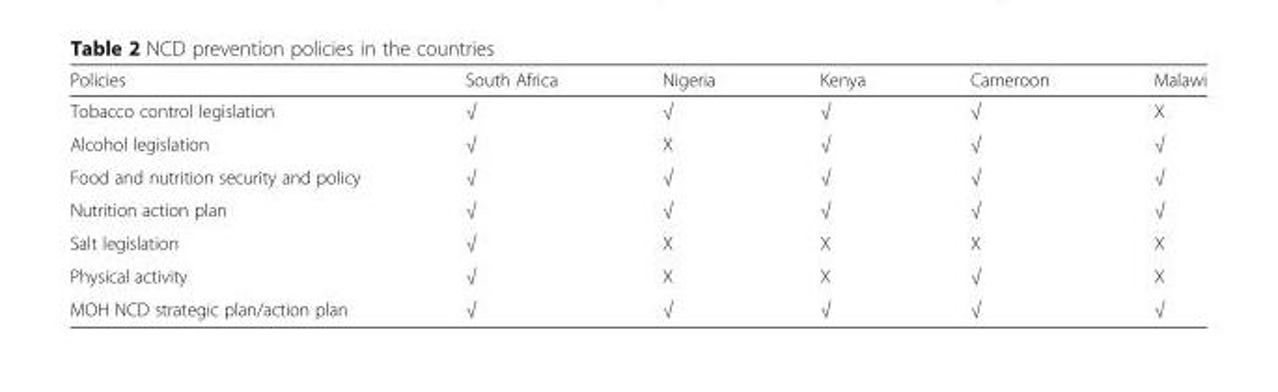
<table><thead><tr><td>Policies</td><td>South Africa</td><td>Nigeria</td><td>Kenya</td><td>Cameroon</td><td>Malawi</td></tr></thead><tbody><tr><td>Tobacco control legislation</td><td>√</td><td>√</td><td>√</td><td>√</td><td>X</td></tr><tr><td>Alcohol legislation</td><td>√</td><td>X</td><td>√</td><td>√</td><td>√</td></tr><tr><td>Food and nutrition security and policy</td><td>√</td><td>√</td><td>√</td><td>√</td><td>√</td></tr><tr><td>Nutrition action plan</td><td>√</td><td>√</td><td>√</td><td>√</td><td>√</td></tr><tr><td>Salt legislation</td><td>√</td><td>X</td><td>X</td><td>X</td><td>X</td></tr><tr><td>Physical activity</td><td>√</td><td>X</td><td>X</td><td>√</td><td>X</td></tr><tr><td>MOH NCD strategic plan/action plan</td><td>√</td><td>√</td><td>√</td><td>√</td><td>√</td></tr></tbody></table>